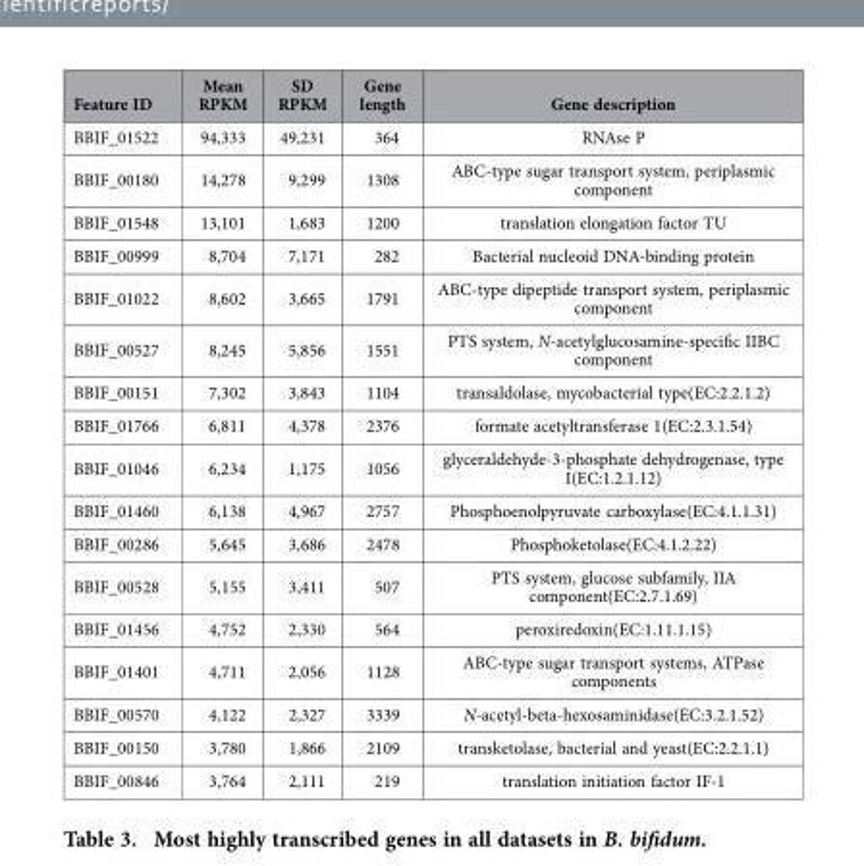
<table><thead><tr><td>Feature ID</td><td>Mean RPKM</td><td>SD RPKM</td><td>Gene length</td><td>Gene description</td></tr></thead><tbody><tr><td>BBIF_01522</td><td>94,333</td><td>49,231</td><td>364</td><td>RNAse P</td></tr><tr><td>BBIF_00180</td><td>14,278</td><td>9,299</td><td>1308</td><td>ABC-type sugar transport system, periplasmic component</td></tr><tr><td>BBIF_01548</td><td>13,101</td><td>1,683</td><td>1200</td><td>translation elongation factor TU</td></tr><tr><td>BBIF_00999</td><td>8,704</td><td>7,171</td><td>282</td><td>Bacterial nucleoid DNA-binding protein</td></tr><tr><td>BBIF_01022</td><td>8,602</td><td>3,665</td><td>1791</td><td>ABC-type dipeptide transport system, periplasmic component</td></tr><tr><td>BBIF_00527</td><td>8,245</td><td>5,856</td><td>1551</td><td>PTS system, N-acetylglucosamine-specific IIBC component</td></tr><tr><td>BBIF_00151</td><td>7,302</td><td>3,843</td><td>1104</td><td>transaldolase, mycobacterial type(EC:2.2.1.2)</td></tr><tr><td>BBIF_01766</td><td>6,811</td><td>4,378</td><td>2376</td><td>formate acetyltransferase 1(EC:2.3.1.54)</td></tr><tr><td>BBIF_01046</td><td>6,234</td><td>1,175</td><td>1056</td><td>glyceraldehyde-3-phosphate dehydrogenase, type I(EC:1.2.1.12)</td></tr><tr><td>BBIF_01460</td><td>6,138</td><td>4,967</td><td>2757</td><td>Phosphoenolpyruvate carboxylase(EC:4.1.1.31)</td></tr><tr><td>BBIF_00286</td><td>5,645</td><td>3,686</td><td>2478</td><td>Phosphoketolase(EC:4.1.2.22)</td></tr><tr><td>BBIF_00528</td><td>5,155</td><td>3,411</td><td>507</td><td>PTS system, glucose subfamily, IIA component(EC:2.7.1.69)</td></tr><tr><td>BBIF_01456</td><td>4,752</td><td>2,330</td><td>564</td><td>peroxiredoxin(EC:1.11.1.15)</td></tr><tr><td>BBIF_01401</td><td>4,711</td><td>2,056</td><td>1128</td><td>ABC-type sugar transport systems, ATPase components</td></tr><tr><td>BBIF_00570</td><td>4,122</td><td>2,327</td><td>3339</td><td>N-acetyl-beta-hexosaminidase(EC:3.2.1.52)</td></tr><tr><td>BBIF_00150</td><td>3,780</td><td>1,866</td><td>2109</td><td>transketolase, bacterial and yeast(EC:2.2.1.1)</td></tr><tr><td>BBIF_00846</td><td>3,764</td><td>2,111</td><td>219</td><td>translation initiation factor IF-1</td></tr></tbody></table>